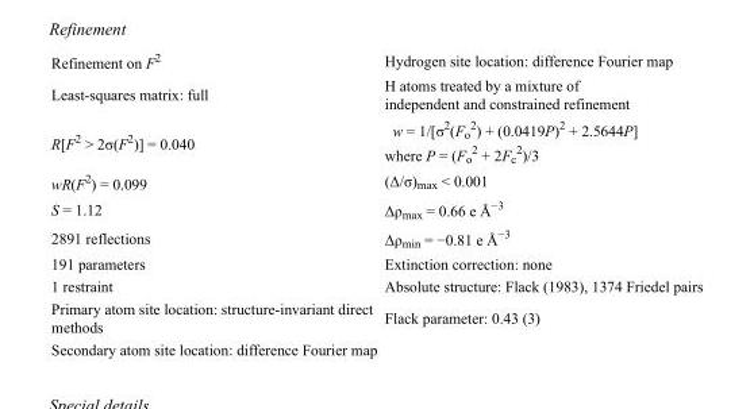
<table><tbody><tr><td>Refinement on F<sup>2</sup></td><td>Hydrogen site location: difference Fourier map</td></tr><tr><td>Least-squares matrix: full</td><td>H atoms treated by a mixture of independent and constrained refinement</td></tr><tr><td>R[F<sup>2</sup> &gt; 2σ(F<sup>2</sup>)] = 0.040</td><td>w = 1/[σ<sup>2</sup>(F<sub>o</sub> <sup>2</sup>) + (0.0419P)<sup>2</sup> + 2.5644P] where P = (F<sub>o</sub> <sup>2</sup> + 2F<sub>c</sub> <sup>2</sup>)/3</td></tr><tr><td>wR(F<sup>2</sup>) = 0.099</td><td>(Δ/σ)<sub>max</sub> &lt; 0.001</td></tr><tr><td>S = 1.12</td><td>Δρ<sub>max</sub> = 0.66 e Å<sup>−3</sup></td></tr><tr><td>2891 reflections</td><td>Δρ<sub>min</sub> = −0.81 e Å<sup>−3</sup></td></tr><tr><td>191 parameters</td><td>Extinction correction: none</td></tr><tr><td>1 restraint</td><td>Absolute structure: Flack (1983), 1374 Friedel pairs</td></tr><tr><td>Primary atom site location: structure-invariant direct methods</td><td>Flack parameter: 0.43 (3)</td></tr><tr><td>Secondary atom site location: difference Fourier map</td><td></td></tr></tbody></table>